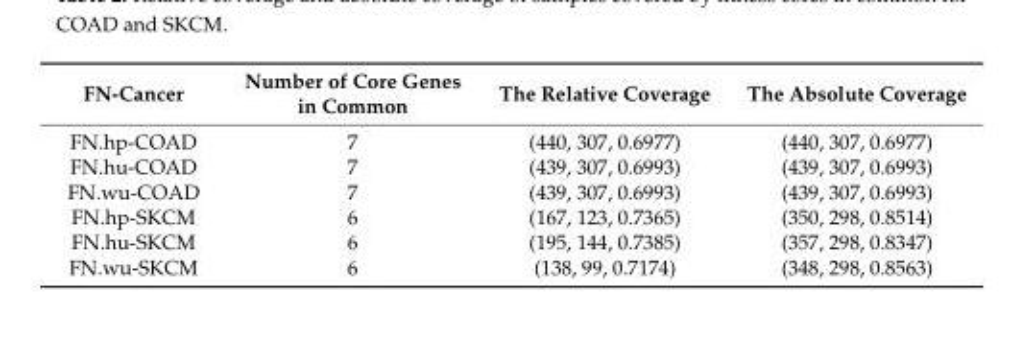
<table><thead><tr><td>FN-Cancer</td><td>Number of Core Genes in Common</td><td>The Relative Coverage</td><td>The Absolute Coverage</td></tr></thead><tbody><tr><td>FN.hp-COAD</td><td>7</td><td>(440, 307, 0.6977)</td><td>(440, 307, 0.6977)</td></tr><tr><td>FN.hu-COAD</td><td>7</td><td>(439, 307, 0.6993)</td><td>(439, 307, 0.6993)</td></tr><tr><td>FN.wu-COAD</td><td>7</td><td>(439, 307, 0.6993)</td><td>(439, 307, 0.6993)</td></tr><tr><td>FN.hp-SKCM</td><td>6</td><td>(167, 123, 0.7365)</td><td>(350, 298, 0.8514)</td></tr><tr><td>FN.hu-SKCM</td><td>6</td><td>(195, 144, 0.7385)</td><td>(357, 298, 0.8347)</td></tr><tr><td>FN.wu-SKCM</td><td>6</td><td>(138, 99, 0.7174)</td><td>(348, 298, 0.8563)</td></tr></tbody></table>